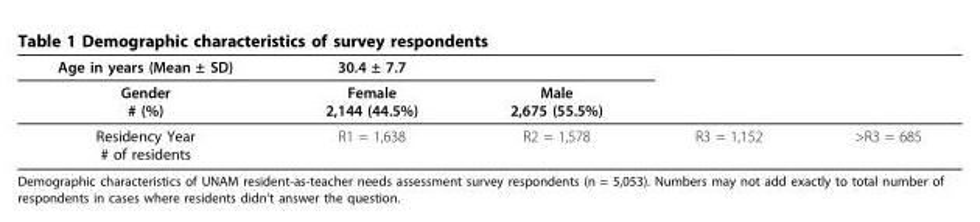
<table><thead><tr><td rowspan="2">Age in years (Mean ± SD) Gender # (%)</td><td rowspan="2">30.4 ± 7.7 Female 2,144 (44.5%)</td><td rowspan="2">Male 2,675 (55.5%)</td><td rowspan="2"></td><td rowspan="2"></td></tr><tr></tr></thead><tbody><tr><td>Residency Year # of residents</td><td>R1 = 1,638</td><td>R2 = 1,578</td><td>R3 = 1,152</td><td>&gt;R3 = 685</td></tr></tbody></table>